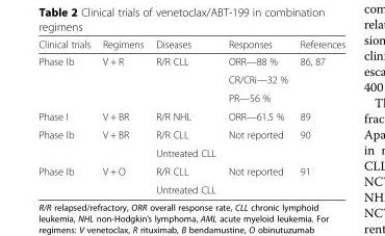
<table><thead><tr><td>Clinical trials</td><td>Regimens</td><td>Diseases</td><td>Responses</td><td>References</td></tr></thead><tbody><tr><td rowspan="3">Phase Ib</td><td rowspan="3">V + R</td><td rowspan="3">R/R CLL</td><td>ORR—88 %</td><td rowspan="3">86, 87</td></tr><tr><td>CR/CRi—32 %</td></tr><tr><td>PR—56 %</td></tr><tr><td>Phase I</td><td>V + BR</td><td>R/R NHL</td><td>ORR—61.5 %</td><td>89</td></tr><tr><td rowspan="2">Phase Ib</td><td rowspan="2">V + BR</td><td>R/R CLL</td><td rowspan="2">Not reported</td><td rowspan="2">90</td></tr><tr><td>Untreated CLL</td></tr><tr><td rowspan="2">Phase Ib</td><td rowspan="2">V + O</td><td>R/R CLL</td><td rowspan="2">Not reported</td><td rowspan="2">91</td></tr><tr><td>Untreated CLL</td></tr></tbody></table>